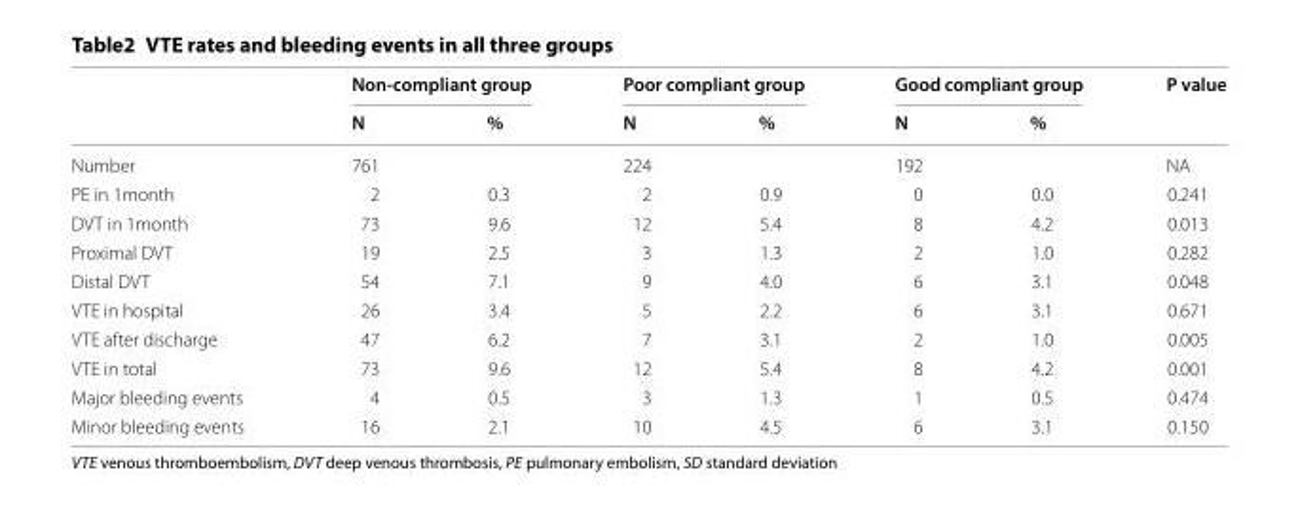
<table><thead><tr><td rowspan="2"></td><td colspan="2">Non-compliant group</td><td colspan="2">Poor compliant group</td><td colspan="2">Good compliant group</td><td rowspan="2">P value</td></tr><tr><td>N</td><td>%</td><td>N</td><td>%</td><td>N</td><td>%</td></tr></thead><tbody><tr><td>Number</td><td>761</td><td></td><td>224</td><td></td><td>192</td><td></td><td>NA</td></tr><tr><td>PE in 1month</td><td>2</td><td>0.3</td><td>2</td><td>0.9</td><td>0</td><td>0.0</td><td>0.241</td></tr><tr><td>DVT in 1month</td><td>73</td><td>9.6</td><td>12</td><td>5.4</td><td>8</td><td>4.2</td><td>0.013</td></tr><tr><td>Proximal DVT</td><td>19</td><td>2.5</td><td>3</td><td>1.3</td><td>2</td><td>1.0</td><td>0.282</td></tr><tr><td>Distal DVT</td><td>54</td><td>7.1</td><td>9</td><td>4.0</td><td>6</td><td>3.1</td><td>0.048</td></tr><tr><td>VTE in hospital</td><td>26</td><td>3.4</td><td>5</td><td>2.2</td><td>6</td><td>3.1</td><td>0.671</td></tr><tr><td>VTE after discharge</td><td>47</td><td>6.2</td><td>7</td><td>3.1</td><td>2</td><td>1.0</td><td>0.005</td></tr><tr><td>VTE in total</td><td>73</td><td>9.6</td><td>12</td><td>5.4</td><td>8</td><td>4.2</td><td>0.001</td></tr><tr><td>Major bleeding events</td><td>4</td><td>0.5</td><td>3</td><td>1.3</td><td>1</td><td>0.5</td><td>0.474</td></tr><tr><td>Minor bleeding events</td><td>16</td><td>2.1</td><td>10</td><td>4.5</td><td>6</td><td>3.1</td><td>0.150</td></tr></tbody></table>